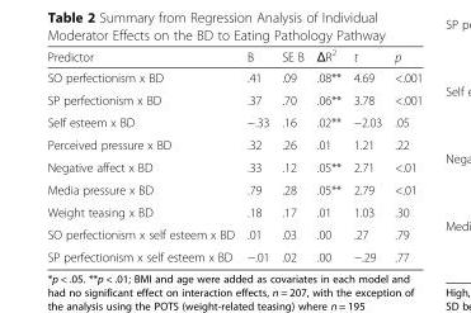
<table><thead><tr><td>Predictor</td><td>B</td><td>SE B</td><td>ΔR<sup>2</sup></td><td>t</td><td>p</td></tr></thead><tbody><tr><td>SO perfectionism x BD</td><td>.41</td><td>.09</td><td>.08**</td><td>4.69</td><td>&lt;.001</td></tr><tr><td>SP perfectionism x BD</td><td>.37</td><td>.70</td><td>.06**</td><td>3.78</td><td>&lt;.001</td></tr><tr><td>Self esteem x BD</td><td>−.33</td><td>.16</td><td>.02**</td><td>−2.03</td><td>.05</td></tr><tr><td>Perceived pressure x BD</td><td>.32</td><td>.26</td><td>.01</td><td>1.21</td><td>.22</td></tr><tr><td>Negative affect x BD</td><td>.33</td><td>.12</td><td>.05**</td><td>2.71</td><td>&lt;.01</td></tr><tr><td>Media pressure x BD</td><td>.79</td><td>.28</td><td>.05**</td><td>2.79</td><td>&lt;.01</td></tr><tr><td>Weight teasing x BD</td><td>.18</td><td>.17</td><td>.01</td><td>1.03</td><td>.30</td></tr><tr><td>SO perfectionism x self esteem x BD</td><td>.01</td><td>.03</td><td>.00</td><td>.27</td><td>.79</td></tr><tr><td>SP perfectionism x self esteem x BD</td><td>−.01</td><td>.02</td><td>.00</td><td>−.29</td><td>.77</td></tr></tbody></table>